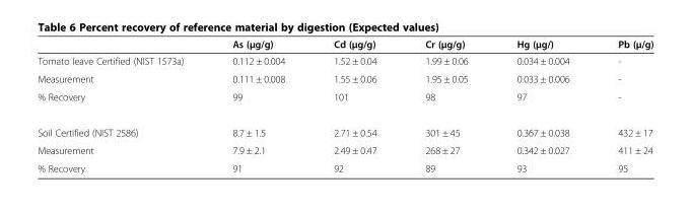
<table><thead><tr><td></td><td>As (μg/g)</td><td>Cd (μg/g)</td><td>Cr (μg/g)</td><td>Hg (μg/)</td><td>Pb (μ/g)</td></tr></thead><tbody><tr><td>Tomato leave Certified (NIST 1573a)</td><td>0.112 ± 0.004</td><td>1.52 ± 0.04</td><td>1.99 ± 0.06</td><td>0.034 ± 0.004</td><td>-</td></tr><tr><td>Measurement</td><td>0.111 ± 0.008</td><td>1.55 ± 0.06</td><td>1.95 ± 0.05</td><td>0.033 ± 0.006</td><td>-</td></tr><tr><td>% Recovery</td><td>99</td><td>101</td><td>98</td><td>97</td><td>-</td></tr><tr><td>Soil Certified (NIST 2586)</td><td>8.7 ± 1.5</td><td>2.71 ± 0.54</td><td>301 ± 45</td><td>0.367 ± 0.038</td><td>432 ± 17</td></tr><tr><td>Measurement</td><td>7.9 ± 2.1</td><td>2.49 ± 0.47</td><td>268 ± 27</td><td>0.342 ± 0.027</td><td>411 ± 24</td></tr><tr><td>% Recovery</td><td>91</td><td>92</td><td>89</td><td>93</td><td>95</td></tr></tbody></table>